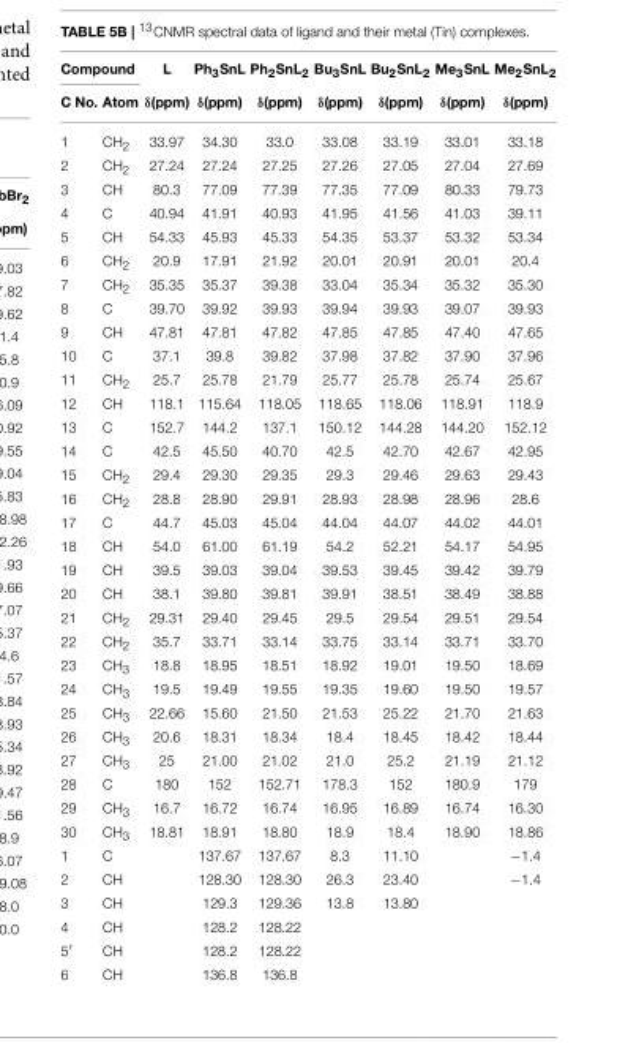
<table><thead><tr><td colspan="2">Compound</td><td rowspan="2">L δ(ppm)</td><td rowspan="2">Ph<sub>3</sub>SnL δ(ppm)</td><td rowspan="2">Ph<sub>2</sub>SnL<sub>2</sub> δ(ppm)</td><td rowspan="2">Bu<sub>3</sub>SnL δ(ppm)</td><td rowspan="2">Bu<sub>2</sub>SnL<sub>2</sub> δ(ppm)</td><td rowspan="2">Me<sub>3</sub>SnL δ(ppm)</td><td rowspan="2">Me<sub>2</sub>SnL<sub>2</sub> δ(ppm)</td></tr><tr><td>C No.</td><td>Atom</td></tr></thead><tbody><tr><td>1</td><td>CH<sub>2</sub></td><td>33.97</td><td>34.30</td><td>33.0</td><td>33.08</td><td>33.19</td><td>33.01</td><td>33.18</td></tr><tr><td>2</td><td>CH<sub>2</sub></td><td>27.24</td><td>27.24</td><td>27.25</td><td>27.26</td><td>27.05</td><td>27.04</td><td>27.69</td></tr><tr><td>3</td><td>CH</td><td>80.3</td><td>77.09</td><td>77.39</td><td>77.35</td><td>77.09</td><td>80.33</td><td>79.73</td></tr><tr><td>4</td><td>C</td><td>40.94</td><td>41.91</td><td>40.93</td><td>41.95</td><td>41.56</td><td>41.03</td><td>39.11</td></tr><tr><td>5</td><td>CH</td><td>54.33</td><td>45.93</td><td>45.33</td><td>54.35</td><td>53.37</td><td>53.32</td><td>53.34</td></tr><tr><td>6</td><td>CH<sub>2</sub></td><td>20.9</td><td>17.91</td><td>21.92</td><td>20.01</td><td>20.91</td><td>20.01</td><td>20.4</td></tr><tr><td>7</td><td>CH<sub>2</sub></td><td>35.35</td><td>35.37</td><td>39.38</td><td>33.04</td><td>35.34</td><td>35.32</td><td>35.30</td></tr><tr><td>8</td><td>C</td><td>39.70</td><td>39.92</td><td>39.93</td><td>39.94</td><td>39.93</td><td>39.07</td><td>39.93</td></tr><tr><td>9</td><td>CH</td><td>47.81</td><td>47.81</td><td>47.82</td><td>47.85</td><td>47.85</td><td>47.40</td><td>47.65</td></tr><tr><td>10</td><td>C</td><td>37.1</td><td>39.8</td><td>39.82</td><td>37.98</td><td>37.82</td><td>37.90</td><td>37.96</td></tr><tr><td>11</td><td>CH<sub>2</sub></td><td>25.7</td><td>25.78</td><td>21.79</td><td>25.77</td><td>25.78</td><td>25.74</td><td>25.67</td></tr><tr><td>12</td><td>CH</td><td>118.1</td><td>115.64</td><td>118.05</td><td>118.65</td><td>118.06</td><td>118.91</td><td>118.9</td></tr><tr><td>13</td><td>C</td><td>152.7</td><td>144.2</td><td>137.1</td><td>150.12</td><td>144.28</td><td>144.20</td><td>152.12</td></tr><tr><td>14</td><td>C</td><td>42.5</td><td>45.50</td><td>40.70</td><td>42.5</td><td>42.70</td><td>42.67</td><td>42.95</td></tr><tr><td>15</td><td>CH<sub>2</sub></td><td>29.4</td><td>29.30</td><td>29.35</td><td>29.3</td><td>29.46</td><td>29.63</td><td>29.43</td></tr><tr><td>16</td><td>CH<sub>2</sub></td><td>28.8</td><td>28.90</td><td>29.91</td><td>28.93</td><td>28.98</td><td>28.96</td><td>28.6</td></tr><tr><td>17</td><td>C</td><td>44.7</td><td>45.03</td><td>45.04</td><td>44.04</td><td>44.07</td><td>44.02</td><td>44.01</td></tr><tr><td>18</td><td>CH</td><td>54.0</td><td>61.00</td><td>61.19</td><td>54.2</td><td>52.21</td><td>54.17</td><td>54.95</td></tr><tr><td>19</td><td>CH</td><td>39.5</td><td>39.03</td><td>39.04</td><td>39.53</td><td>39.45</td><td>39.42</td><td>39.79</td></tr><tr><td>20</td><td>CH</td><td>38.1</td><td>39.80</td><td>39.81</td><td>39.91</td><td>38.51</td><td>38.49</td><td>38.88</td></tr><tr><td>21</td><td>CH<sub>2</sub></td><td>29.31</td><td>29.40</td><td>29.45</td><td>29.5</td><td>29.54</td><td>29.51</td><td>29.54</td></tr><tr><td>22</td><td>CH<sub>2</sub></td><td>35.7</td><td>33.71</td><td>33.14</td><td>33.75</td><td>33.14</td><td>33.71</td><td>33.70</td></tr><tr><td>23</td><td>CH<sub>3</sub></td><td>18.8</td><td>18.95</td><td>18.51</td><td>18.92</td><td>19.01</td><td>19.50</td><td>18.69</td></tr><tr><td>24</td><td>CH<sub>3</sub></td><td>19.5</td><td>19.49</td><td>19.55</td><td>19.35</td><td>19.60</td><td>19.50</td><td>19.57</td></tr><tr><td>25</td><td>CH<sub>3</sub></td><td>22.66</td><td>15.60</td><td>21.50</td><td>21.53</td><td>25.22</td><td>21.70</td><td>21.63</td></tr><tr><td>26</td><td>CH<sub>3</sub></td><td>20.6</td><td>18.31</td><td>18.34</td><td>18.4</td><td>18.45</td><td>18.42</td><td>18.44</td></tr><tr><td>27</td><td>CH<sub>3</sub></td><td>25</td><td>21.00</td><td>21.02</td><td>21.0</td><td>25.2</td><td>21.19</td><td>21.12</td></tr><tr><td>28</td><td>C</td><td>180</td><td>152</td><td>152.71</td><td>178.3</td><td>152</td><td>180.9</td><td>179</td></tr><tr><td>29</td><td>CH<sub>3</sub></td><td>16.7</td><td>16.72</td><td>16.74</td><td>16.95</td><td>16.89</td><td>16.74</td><td>16.30</td></tr><tr><td>30</td><td>CH<sub>3</sub></td><td>18.81</td><td>18.91</td><td>18.80</td><td>18.9</td><td>18.4</td><td>18.90</td><td>18.86</td></tr><tr><td>1</td><td>C</td><td></td><td>137.67</td><td>137.67</td><td>8.3</td><td>11.10</td><td></td><td>−1.4</td></tr><tr><td>2</td><td>CH</td><td></td><td>128.30</td><td>128.30</td><td>26.3</td><td>23.40</td><td></td><td>−1.4</td></tr><tr><td>3</td><td>CH</td><td></td><td>129.3</td><td>129.36</td><td>13.8</td><td>13.80</td><td></td><td></td></tr><tr><td>4</td><td>CH</td><td></td><td>128.2</td><td>128.22</td><td></td><td></td><td></td><td></td></tr><tr><td>5′</td><td>CH</td><td></td><td>128.2</td><td>128.22</td><td></td><td></td><td></td><td></td></tr><tr><td>6</td><td>CH</td><td></td><td>136.8</td><td>136.8</td><td></td><td></td><td></td><td></td></tr></tbody></table>